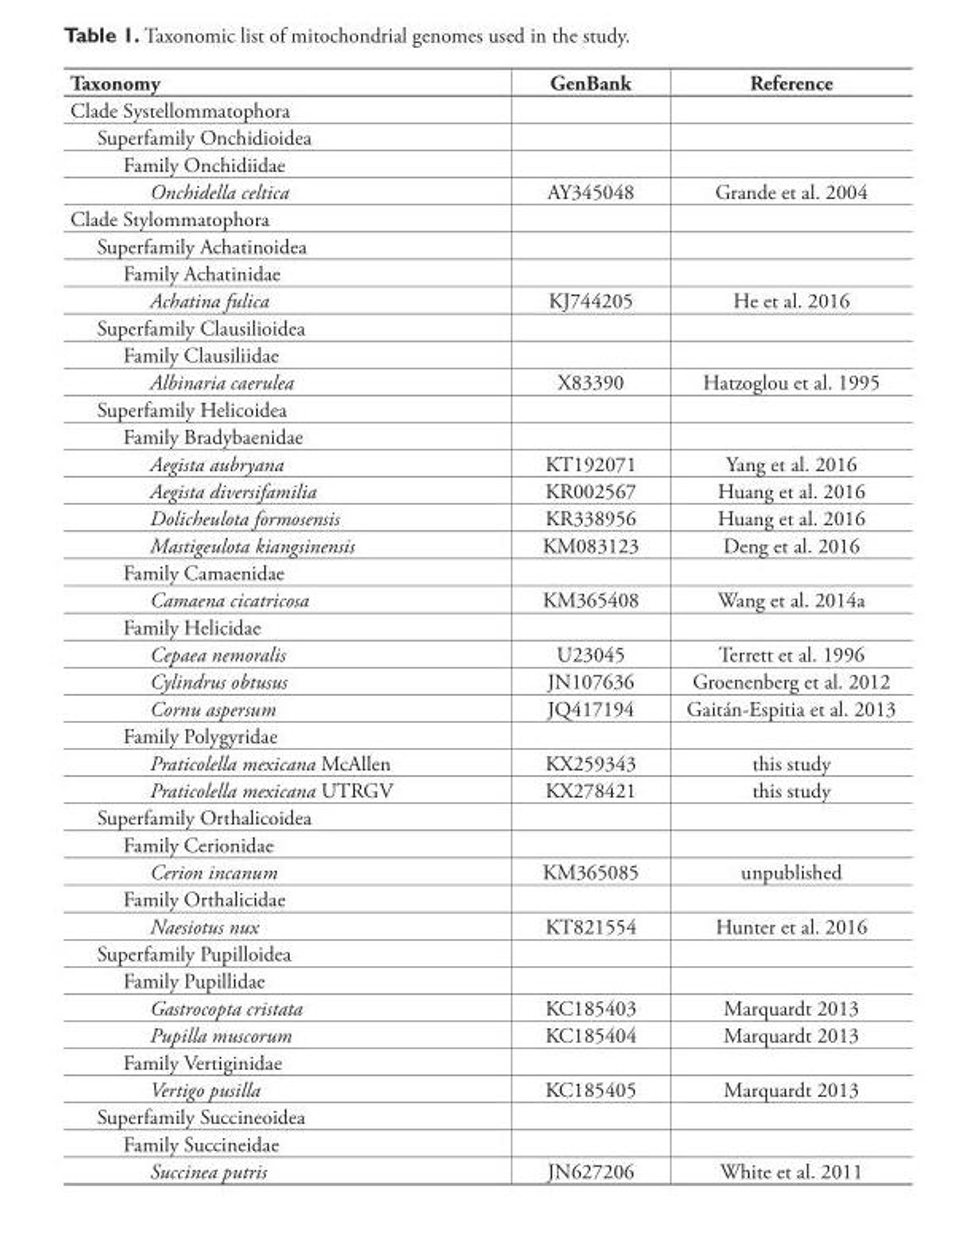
<table><thead><tr><td>Taxonomy</td><td>GenBank</td><td>Reference</td></tr></thead><tbody><tr><td colspan="3">Clade Systellommatophora</td></tr><tr><td colspan="3">Superfamily Onchidioidea</td></tr><tr><td colspan="3">Family Onchidiidae</td></tr><tr><td>Onchidella celtica</td><td>AY345048</td><td>Grande et al. 2004</td></tr><tr><td colspan="3">Clade Stylommatophora</td></tr><tr><td colspan="3">Superfamily Achatinoidea</td></tr><tr><td colspan="3">Family Achatinidae</td></tr><tr><td>Achatina fulica</td><td>KJ744205</td><td>He et al. 2016</td></tr><tr><td colspan="3">Superfamily Clausilioidea</td></tr><tr><td colspan="3">Family Clausiliidae</td></tr><tr><td>Albinaria caerulea</td><td>X83390</td><td>Hatzoglou et al. 1995</td></tr><tr><td colspan="3">Superfamily Helicoidea</td></tr><tr><td colspan="3">Family Bradybaenidae</td></tr><tr><td>Aegista aubryana</td><td>KT192071</td><td>Yang et al. 2016</td></tr><tr><td>Aegista diversifamilia</td><td>KR002567</td><td>Huang et al. 2016</td></tr><tr><td>Dolicheulota formosensis</td><td>KR338956</td><td>Huang et al. 2016</td></tr><tr><td>Mastigeulota kiangsinensis</td><td>KM083123</td><td>Deng et al. 2016</td></tr><tr><td colspan="3">Family Camaenidae</td></tr><tr><td>Camaena cicatricosa</td><td>KM365408</td><td>Wang et al. 2014a</td></tr><tr><td colspan="3">Family Helicidae</td></tr><tr><td>Cepaea nemoralis</td><td>U23045</td><td>Terrett et al. 1996</td></tr><tr><td>Cylindrus obtusus</td><td>JN107636</td><td>Groenenberg et al. 2012</td></tr><tr><td>Cornu aspersum</td><td>JQ417194</td><td>Gaitán-Espitia et al. 2013</td></tr><tr><td colspan="3">Family Polygyridae</td></tr><tr><td>Praticolella mexicana McAllen</td><td>KX259343</td><td>this study</td></tr><tr><td>Praticolella mexicana UTRGV</td><td>KX278421</td><td>this study</td></tr><tr><td colspan="3">Superfamily Orthalicoidea</td></tr><tr><td colspan="3">Family Cerionidae</td></tr><tr><td>Cerion incanum</td><td>KM365085</td><td>unpublished</td></tr><tr><td colspan="3">Family Orthalicidae</td></tr><tr><td>Naesiotus nux</td><td>KT821554</td><td>Hunter et al. 2016</td></tr><tr><td colspan="3">Superfamily Pupilloidea</td></tr><tr><td colspan="3">Family Pupillidae</td></tr><tr><td>Gastrocopta cristata</td><td>KC185403</td><td>Marquardt 2013</td></tr><tr><td>Pupilla muscorum</td><td>KC185404</td><td>Marquardt 2013</td></tr><tr><td colspan="3">Family Vertiginidae</td></tr><tr><td>Vertigo pusilla</td><td>KC185405</td><td>Marquardt 2013</td></tr><tr><td colspan="3">Superfamily Succineoidea</td></tr><tr><td colspan="3">Family Succineidae</td></tr><tr><td>Succinea putris</td><td>JN627206</td><td>White et al. 2011</td></tr></tbody></table>